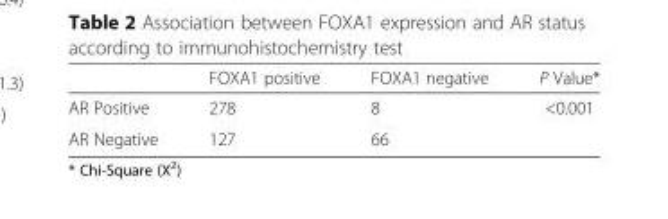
<table><thead><tr><td></td><td>FOXA1 positive</td><td>FOXA1 negative</td><td>P Value*</td></tr></thead><tbody><tr><td>AR Positive</td><td>278</td><td>8</td><td rowspan="2">&lt;0.001</td></tr><tr><td>AR Negative</td><td>127</td><td>66</td></tr></tbody></table>